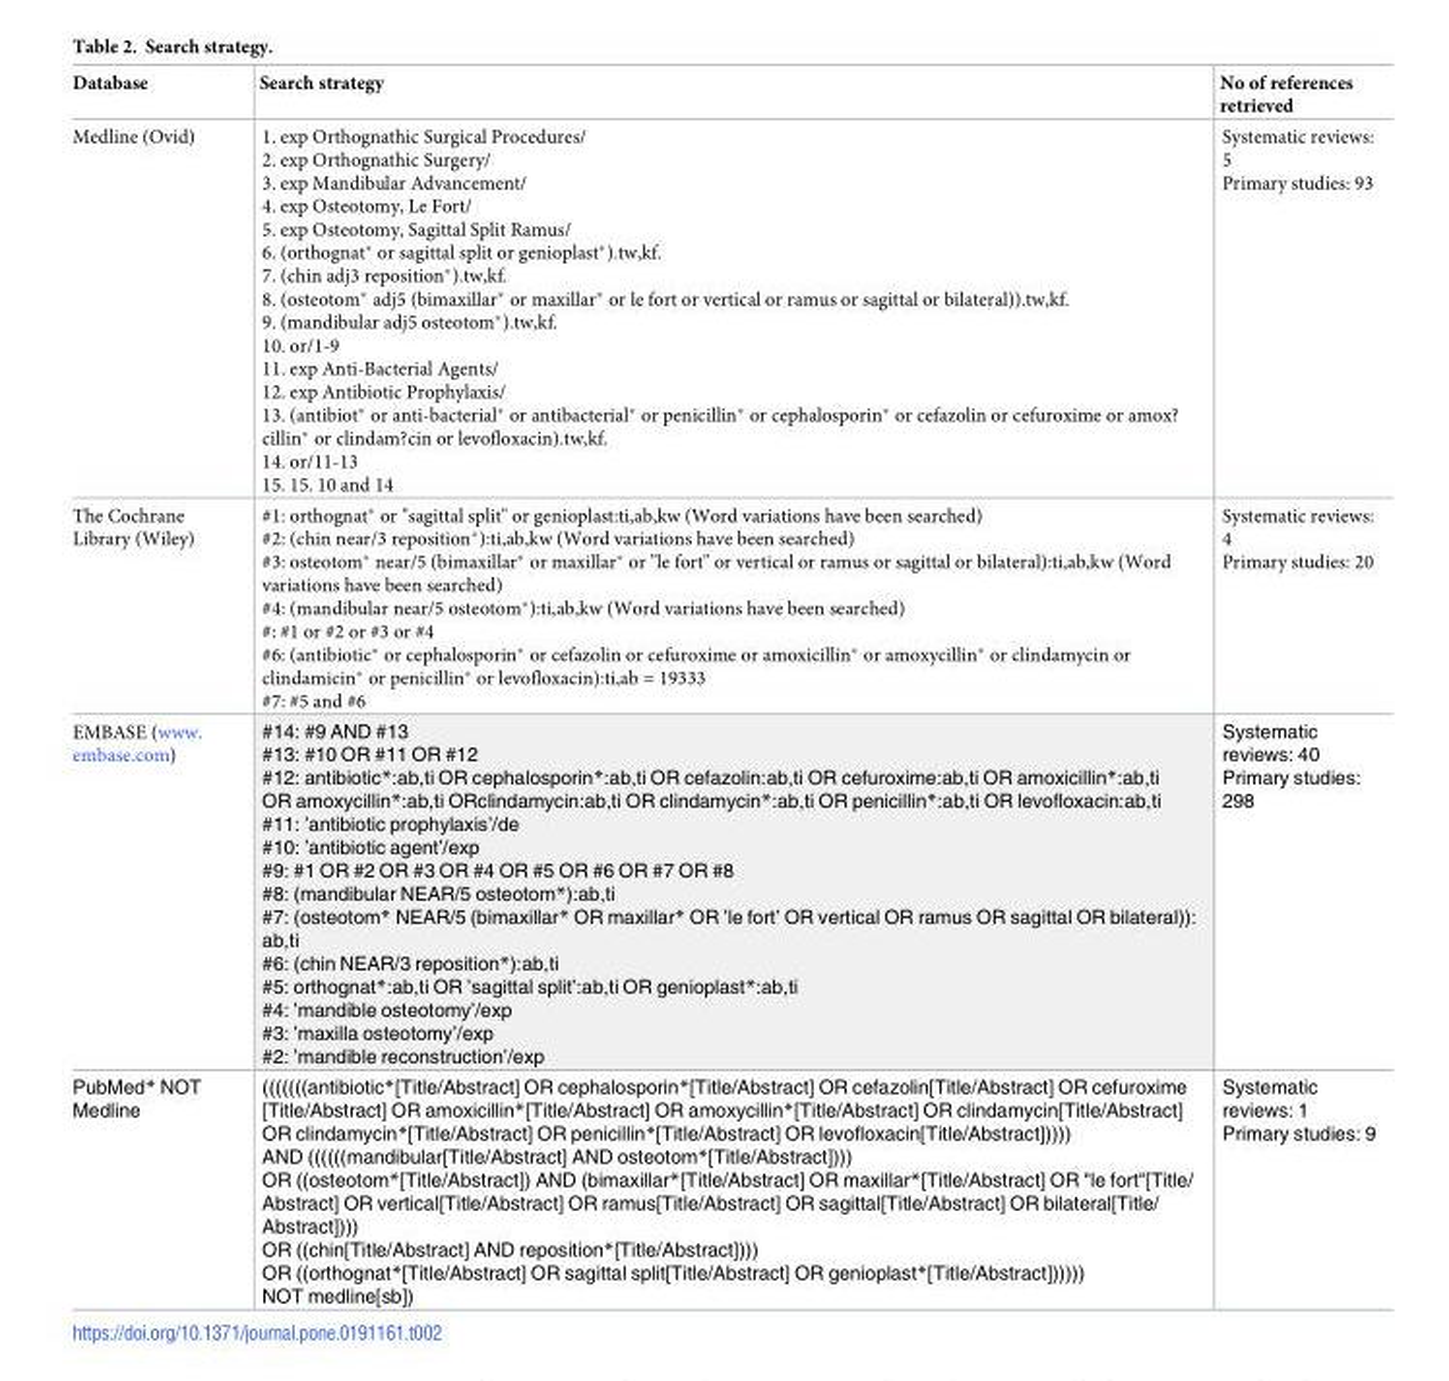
<table><thead><tr><td>Database</td><td>Search strategy</td><td>No of references retrieved</td></tr></thead><tbody><tr><td>Medline (Ovid)</td><td>1. exp Orthognathic Surgical Procedures/ 2. exp Orthognathic Surgery/ 3. exp Mandibular Advancement/ 4. exp Osteotomy, Le Fort/ 5. exp Osteotomy, Sagittal Split Ramus/ 6. (orthognat* or sagittal split or genioplast*).tw,kf. 7. (chin adj3 reposition*).tw,kf. 8. (osteotom* adj5 (bimaxillar* or maxillar* or le fort or vertical or ramus or sagittal or bilateral)).tw,kf. 9. (mandibular adj5 osteotom*).tw,kf. 10. or/1-9 11. exp Anti-Bacterial Agents/ 12. exp Antibiotic Prophylaxis/ 13. (antibiot* or anti-bacterial* or antibacterial* or penicillin* or cephalosporin* or cefazolin or cefuroxime or amox? cillin* or clindam?cin or levofloxacin).tw,kf. 14. or/11-13 15. 15. 10 and 14</td><td>Systematic reviews: 5 Primary studies: 93</td></tr><tr><td>The Cochrane Library (Wiley)</td><td>#1: orthognat* or &quot;sagittal split&quot; or genioplast:ti,ab,kw (Word variations have been searched) #2: (chin near/3 reposition*):ti,ab,kw (Word variations have been searched) #3: osteotom* near/5 (bimaxillar* or maxillar* or &quot;le fort&quot; or vertical or ramus or sagittal or bilateral):ti,ab,kw (Word variations have been searched) #4: (mandibular near/5 osteotom*):ti,ab,kw (Word variations have been searched) #: #1 or #2 or #3 or #4 #6: (antibiotic* or cephalosporin* or cefazolin or cefuroxime or amoxicillin* or amoxycillin* or clindamycin or clindamicin* or penicillin* or levofloxacin):ti,ab = 19333 #7: #5 and #6</td><td>Systematic reviews: 4 Primary studies: 20</td></tr><tr><td>EMBASE (www. embase.com)</td><td>#14: #9 AND #13 #13: #10 OR #11 OR #12 #12: antibiotic*:ab,ti OR cephalosporin*:ab,ti OR cefazolin:ab,ti OR cefuroxime:ab,ti OR amoxicillin*:ab,ti OR amoxycillin*:ab,ti ORclindamycin:ab,ti OR clindamycin*:ab,ti OR penicillin*:ab,ti OR levofloxacin:ab,ti #11: ’antibiotic prophylaxis’/de #10: ’antibiotic agent’/exp #9: #1 OR #2 OR #3 OR #4 OR #5 OR #6 OR #7 OR #8 #8: (mandibular NEAR/5 osteotom*):ab,ti #7: (osteotom* NEAR/5 (bimaxillar* OR maxillar* OR ’le fort’ OR vertical OR ramus OR sagittal OR bilateral)): ab,ti #6: (chin NEAR/3 reposition*):ab,ti #5: orthognat*:ab,ti OR ’sagittal split’:ab,ti OR genioplast*:ab,ti #4: ’mandible osteotomy’/exp #3: ’maxilla osteotomy’/exp #2: ’mandible reconstruction’/exp</td><td>Systematic reviews: 40 Primary studies: 298</td></tr><tr><td>PubMed* NOT Medline</td><td>(((((((antibiotic*[Title/Abstract] OR cephalosporin*[Title/Abstract] OR cefazolin[Title/Abstract] OR cefuroxime [Title/Abstract] OR amoxicillin*[Title/Abstract] OR amoxycillin*[Title/Abstract] OR clindamycin[Title/Abstract] OR clindamycin*[Title/Abstract] OR penicillin*[Title/Abstract] OR levofloxacin[Title/Abstract])))) AND ((((((mandibular[Title/Abstract] AND osteotom*[Title/Abstract]))) OR ((osteotom*[Title/Abstract]) AND (bimaxillar*[Title/Abstract] OR maxillar*[Title/Abstract] OR &quot;le fort&quot;[Title/ Abstract] OR vertical[Title/Abstract] OR ramus[Title/Abstract] OR sagittal[Title/Abstract] OR bilateral[Title/ Abstract]))) OR ((chin[Title/Abstract] AND reposition*[Title/Abstract]))) OR ((orthognat*[Title/Abstract] OR sagittal split[Title/Abstract] OR genioplast*[Title/Abstract]))))) NOT medline[sb])</td><td>Systematic reviews: 1 Primary studies: 9</td></tr></tbody></table>